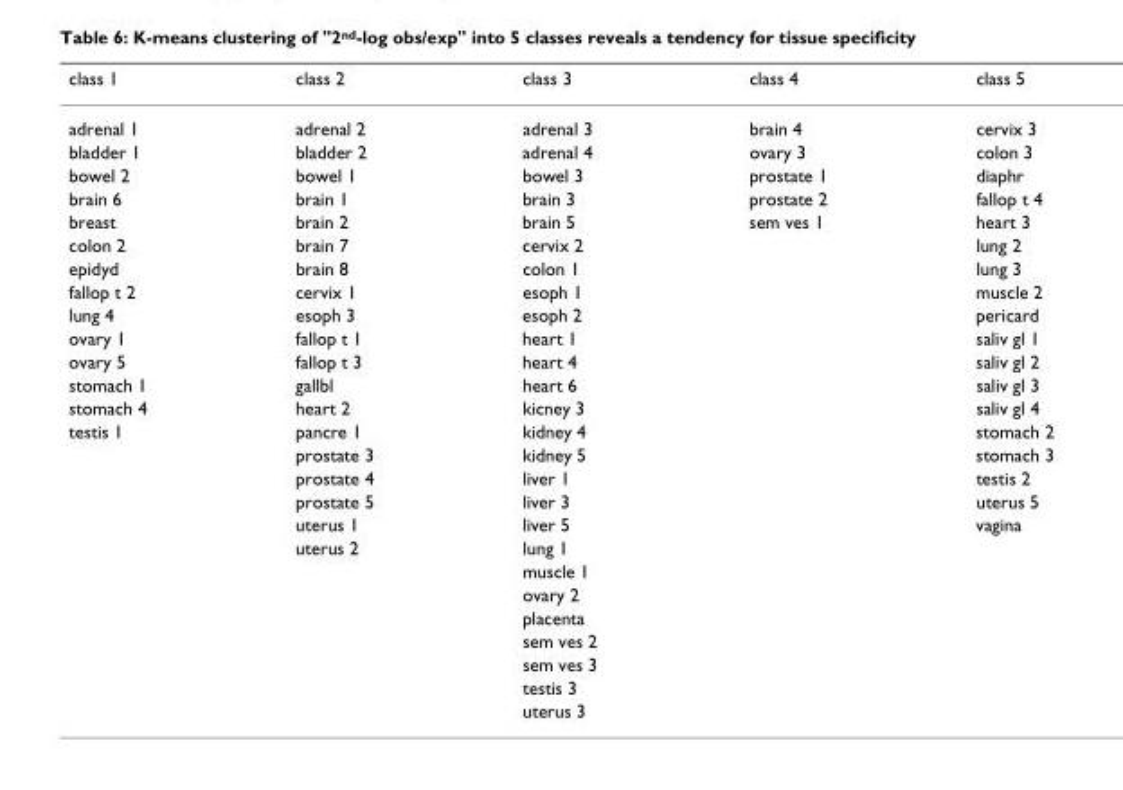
<table><thead><tr><td>class 1</td><td>class 2</td><td>class 3</td><td>class 4</td><td>class 5</td></tr></thead><tbody><tr><td>adrenal 1</td><td>adrenal 2</td><td>adrenal 3</td><td>brain 4</td><td>cervix 3</td></tr><tr><td>bladder 1</td><td>bladder 2</td><td>adrenal 4</td><td>ovary 3</td><td>colon 3</td></tr><tr><td>bowel 2</td><td>bowel 1</td><td>bowel 3</td><td>prostate 1</td><td>diaphr</td></tr><tr><td>brain 6</td><td>brain 1</td><td>brain 3</td><td>prostate 2</td><td>fallop t 4</td></tr><tr><td>breast</td><td>brain 2</td><td>brain 5</td><td>sem ves 1</td><td>heart 3</td></tr><tr><td>colon 2</td><td>brain 7</td><td>cervix 2</td><td></td><td>lung 2</td></tr><tr><td>epidyd</td><td>brain 8</td><td>colon 1</td><td></td><td>lung 3</td></tr><tr><td>fallop t 2</td><td>cervix 1</td><td>esoph 1</td><td></td><td>muscle 2</td></tr><tr><td>lung 4</td><td>esoph 3</td><td>esoph 2</td><td></td><td>pericard</td></tr><tr><td>ovary 1</td><td>fallop t 1</td><td>heart 1</td><td></td><td>saliv gl 1</td></tr><tr><td>ovary 5</td><td>fallop t 3</td><td>heart 4</td><td></td><td>saliv gl 2</td></tr><tr><td>stomach 1</td><td>gallbl</td><td>heart 6</td><td></td><td>saliv gl 3</td></tr><tr><td>stomach 4</td><td>heart 2</td><td>kicney 3</td><td></td><td>saliv gl 4</td></tr><tr><td rowspan="13">testis 1</td><td>pancre 1</td><td>kidney 4</td><td></td><td>stomach 2</td></tr><tr><td>prostate 3</td><td>kidney 5</td><td></td><td>stomach 3</td></tr><tr><td>prostate 4</td><td>liver 1</td><td></td><td>testis 2</td></tr><tr><td>prostate 5</td><td>liver 3</td><td></td><td>uterus 5</td></tr><tr><td>uterus 1</td><td>liver 5</td><td></td><td>vagina</td></tr><tr><td>uterus 2</td><td>lung 1</td><td></td><td></td></tr><tr><td></td><td>muscle 1</td><td></td><td></td></tr><tr><td></td><td>ovary 2</td><td></td><td></td></tr><tr><td></td><td>placenta</td><td></td><td></td></tr><tr><td></td><td>sem ves 2</td><td></td><td></td></tr><tr><td></td><td>sem ves 3</td><td></td><td></td></tr><tr><td></td><td>testis 3</td><td></td><td></td></tr><tr><td></td><td>uterus 3</td><td></td><td></td></tr></tbody></table>